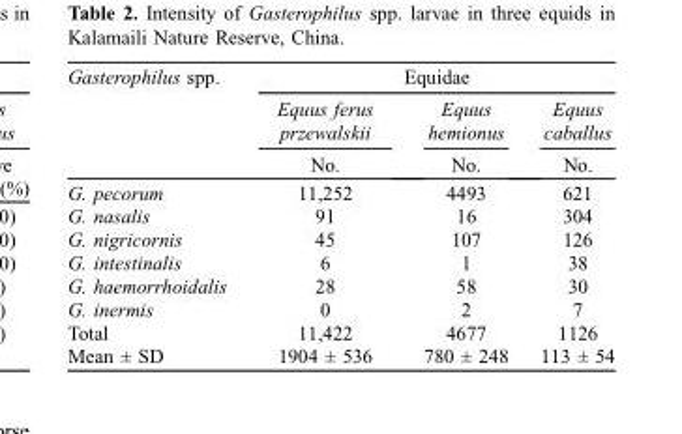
<table><thead><tr><td rowspan="3">Gasterophilus spp.</td><td colspan="3">Equidae</td></tr><tr><td rowspan="2">Equus ferus przewalskii No.</td><td rowspan="2">Equus hemionus No.</td><td rowspan="2">Equus caballus No.</td></tr><tr></tr></thead><tbody><tr><td>G. pecorum</td><td>11,252</td><td>4493</td><td>621</td></tr><tr><td>G. nasalis</td><td>91</td><td>16</td><td>304</td></tr><tr><td>G. nigricornis</td><td>45</td><td>107</td><td>126</td></tr><tr><td>G. intestinalis</td><td>6</td><td>1</td><td>38</td></tr><tr><td>G. haemorrhoidalis</td><td>28</td><td>58</td><td>30</td></tr><tr><td>G. inermis</td><td>0</td><td>2</td><td>7</td></tr><tr><td>Total</td><td>11,422</td><td>4677</td><td>1126</td></tr><tr><td>Mean ± SD</td><td>1904 ± 536</td><td>780 ± 248</td><td>113 ± 54</td></tr></tbody></table>